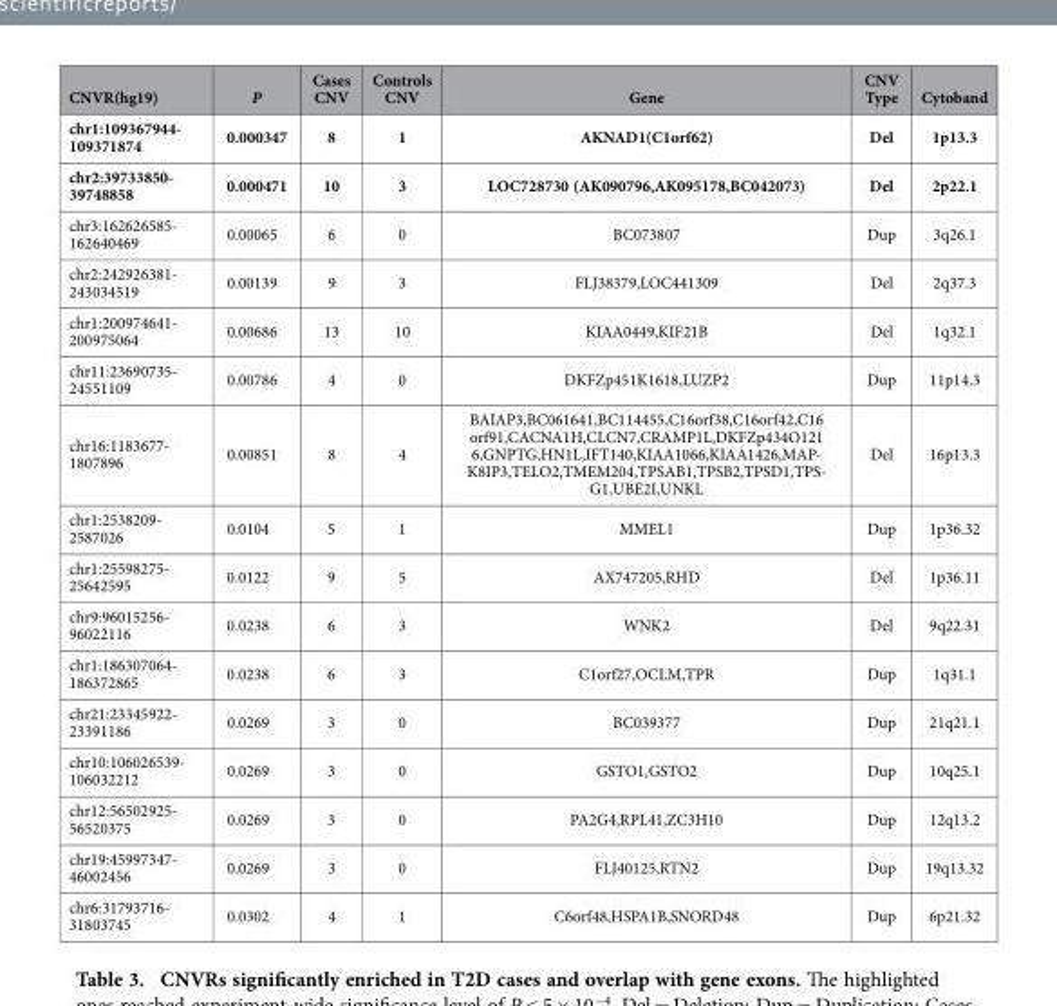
<table><thead><tr><td>CNVR(hg19)</td><td>P</td><td>Cases CNV</td><td>Controls CNV</td><td>Gene</td><td>CNV Type</td><td>Cytoband</td></tr></thead><tbody><tr><td>chr1:109367944- 109371874</td><td>0.000347</td><td>8</td><td>1</td><td>AKNAD1(C1orf62)</td><td>Del</td><td>1p13.3</td></tr><tr><td>chr2:39733850- 39748858</td><td>0.000471</td><td>10</td><td>3</td><td>LOC728730 (AK090796,AK095178,BC042073)</td><td>Del</td><td>2p22.1</td></tr><tr><td>chr3:162626585- 162640469</td><td>0.00065</td><td>6</td><td>0</td><td>BC073807</td><td>Dup</td><td>3q26.1</td></tr><tr><td>chr2:242926381- 243034519</td><td>0.00139</td><td>9</td><td>3</td><td>FLJ38379,LOC441309</td><td>Del</td><td>2q37.3</td></tr><tr><td>chr1:200974641- 200975064</td><td>0.00686</td><td>13</td><td>10</td><td>KIAA0449,KIF21B</td><td>Del</td><td>1q32.1</td></tr><tr><td>chr11:23690735- 24551109</td><td>0.00786</td><td>4</td><td>0</td><td>DKFZp451K1618,LUZP2</td><td>Dup</td><td>11p14.3</td></tr><tr><td>chr16:1183677- 1807896</td><td>0.00851</td><td>8</td><td>4</td><td>BAIAP3,BC061641,BC114455,C16orf38,C16orf42,C16 orf91,CACNA1H,CLCN7,CRAMP1L,DKFZp434O121 6,GNPTG,HN1L,IFT140,KIAA1066,KIAA1426,MAP- K8IP3,TELO2,TMEM204,TPSAB1,TPSB2,TPSD1,TPS- G1,UBE2I,UNKL</td><td>Del</td><td>16p13.3</td></tr><tr><td>chr1:2538209- 2587026</td><td>0.0104</td><td>5</td><td>1</td><td>MMEL1</td><td>Dup</td><td>1p36.32</td></tr><tr><td>chr1:25598275- 25642595</td><td>0.0122</td><td>9</td><td>5</td><td>AX747205,RHD</td><td>Del</td><td>1p36.11</td></tr><tr><td>chr9:96015256- 96022116</td><td>0.0238</td><td>6</td><td>3</td><td>WNK2</td><td>Del</td><td>9q22.31</td></tr><tr><td>chr1:186307064- 186372865</td><td>0.0238</td><td>6</td><td>3</td><td>C1orf27,OCLM,TPR</td><td>Dup</td><td>1q31.1</td></tr><tr><td>chr21:23345922- 23391186</td><td>0.0269</td><td>3</td><td>0</td><td>BC039377</td><td>Dup</td><td>21q21.1</td></tr><tr><td>chr10:106026539- 106032212</td><td>0.0269</td><td>3</td><td>0</td><td>GSTO1,GSTO2</td><td>Dup</td><td>10q25.1</td></tr><tr><td>chr12:56502925- 56520375</td><td>0.0269</td><td>3</td><td>0</td><td>PA2G4,RPL41,ZC3H10</td><td>Dup</td><td>12q13.2</td></tr><tr><td>chr19:45997347- 46002456</td><td>0.0269</td><td>3</td><td>0</td><td>FLJ40125,RTN2</td><td>Dup</td><td>19q13.32</td></tr><tr><td>chr6:31793716- 31803745</td><td>0.0302</td><td>4</td><td>1</td><td>C6orf48,HSPA1B,SNORD48</td><td>Dup</td><td>6p21.32</td></tr></tbody></table>